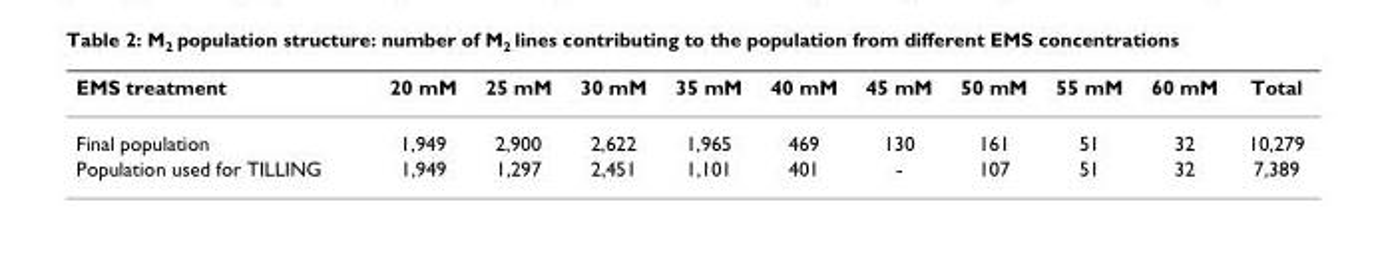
<table><thead><tr><td>EMS treatment</td><td>20 mM</td><td>25 mM</td><td>30 mM</td><td>35 mM</td><td>40 mM</td><td>45 mM</td><td>50 mM</td><td>55 mM</td><td>60 mM</td><td>Total</td></tr></thead><tbody><tr><td>Final population</td><td>1,949</td><td>2,900</td><td>2,622</td><td>1,965</td><td>469</td><td>130</td><td>161</td><td>51</td><td>32</td><td>10,279</td></tr><tr><td>Population used for TILLING</td><td>1,949</td><td>1,297</td><td>2,451</td><td>1,101</td><td>401</td><td>-</td><td>107</td><td>51</td><td>32</td><td>7,389</td></tr></tbody></table>